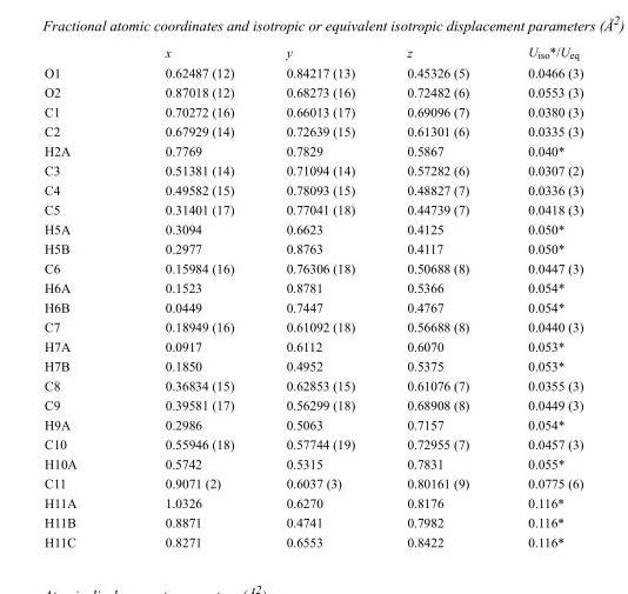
<table><thead><tr><td></td><td>x</td><td>y</td><td>z</td><td>U<sub>iso</sub>*/U<sub>eq</sub></td></tr></thead><tbody><tr><td>O1</td><td>0.62487 (12)</td><td>0.84217 (13)</td><td>0.45326 (5)</td><td>0.0466 (3)</td></tr><tr><td>O2</td><td>0.87018 (12)</td><td>0.68273 (16)</td><td>0.72482 (6)</td><td>0.0553 (3)</td></tr><tr><td>C1</td><td>0.70272 (16)</td><td>0.66013 (17)</td><td>0.69096 (7)</td><td>0.0380 (3)</td></tr><tr><td>C2</td><td>0.67929 (14)</td><td>0.72639 (15)</td><td>0.61301 (6)</td><td>0.0335 (3)</td></tr><tr><td>H2A</td><td>0.7769</td><td>0.7829</td><td>0.5867</td><td>0.040*</td></tr><tr><td>C3</td><td>0.51381 (14)</td><td>0.71094 (14)</td><td>0.57282 (6)</td><td>0.0307 (2)</td></tr><tr><td>C4</td><td>0.49582 (15)</td><td>0.78093 (15)</td><td>0.48827 (7)</td><td>0.0336 (3)</td></tr><tr><td>C5</td><td>0.31401 (17)</td><td>0.77041 (18)</td><td>0.44739 (7)</td><td>0.0418 (3)</td></tr><tr><td>H5A</td><td>0.3094</td><td>0.6623</td><td>0.4125</td><td>0.050*</td></tr><tr><td>H5B</td><td>0.2977</td><td>0.8763</td><td>0.4117</td><td>0.050*</td></tr><tr><td>C6</td><td>0.15984 (16)</td><td>0.76306 (18)</td><td>0.50688 (8)</td><td>0.0447 (3)</td></tr><tr><td>H6A</td><td>0.1523</td><td>0.8781</td><td>0.5366</td><td>0.054*</td></tr><tr><td>H6B</td><td>0.0449</td><td>0.7447</td><td>0.4767</td><td>0.054*</td></tr><tr><td>C7</td><td>0.18949 (16)</td><td>0.61092 (18)</td><td>0.56688 (8)</td><td>0.0440 (3)</td></tr><tr><td>H7A</td><td>0.0917</td><td>0.6112</td><td>0.6070</td><td>0.053*</td></tr><tr><td>H7B</td><td>0.1850</td><td>0.4952</td><td>0.5375</td><td>0.053*</td></tr><tr><td>C8</td><td>0.36834 (15)</td><td>0.62853 (15)</td><td>0.61076 (7)</td><td>0.0355 (3)</td></tr><tr><td>C9</td><td>0.39581 (17)</td><td>0.56299 (18)</td><td>0.68908 (8)</td><td>0.0449 (3)</td></tr><tr><td>H9A</td><td>0.2986</td><td>0.5063</td><td>0.7157</td><td>0.054*</td></tr><tr><td>C10</td><td>0.55946 (18)</td><td>0.57744 (19)</td><td>0.72955 (7)</td><td>0.0457 (3)</td></tr><tr><td>H10A</td><td>0.5742</td><td>0.5315</td><td>0.7831</td><td>0.055*</td></tr><tr><td>C11</td><td>0.9071 (2)</td><td>0.6037 (3)</td><td>0.80161 (9)</td><td>0.0775 (6)</td></tr><tr><td>H11A</td><td>1.0326</td><td>0.6270</td><td>0.8176</td><td>0.116*</td></tr><tr><td>H11B</td><td>0.8871</td><td>0.4741</td><td>0.7982</td><td>0.116*</td></tr><tr><td>H11C</td><td>0.8271</td><td>0.6553</td><td>0.8422</td><td>0.116*</td></tr></tbody></table>